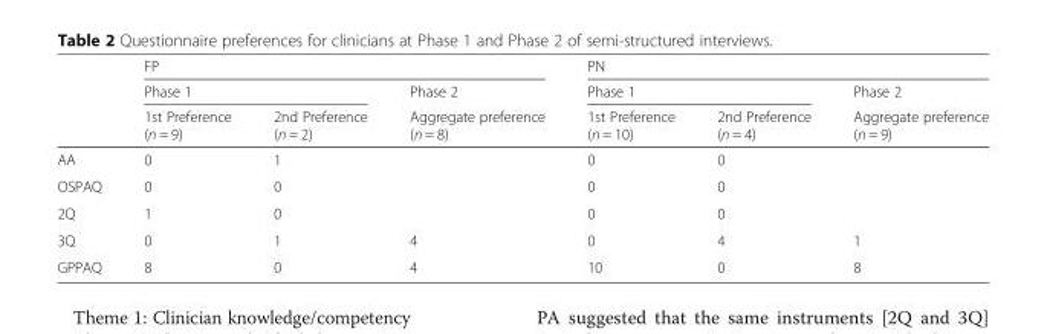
<table><thead><tr><td rowspan="3"></td><td colspan="3">FP</td><td colspan="3">PN</td></tr><tr><td colspan="2">Phase 1</td><td rowspan="2">Phase 2 Aggregate preference (n = 8)</td><td colspan="2">Phase 1</td><td rowspan="2">Phase 2 Aggregate preference (n = 9)</td></tr><tr><td>1st Preference (n = 9)</td><td>2nd Preference (n = 2)</td><td>1st Preference (n = 10)</td><td>2nd Preference (n = 4)</td></tr></thead><tbody><tr><td>AA</td><td>0</td><td>1</td><td rowspan="3"></td><td>0</td><td>0</td><td rowspan="3"></td></tr><tr><td>OSPAQ</td><td>0</td><td>0</td><td>0</td><td>0</td></tr><tr><td>2Q</td><td>1</td><td>0</td><td>0</td><td>0</td></tr><tr><td>3Q</td><td>0</td><td>1</td><td>4</td><td>0</td><td>4</td><td>1</td></tr><tr><td>GPPAQ</td><td>8</td><td>0</td><td>4</td><td>10</td><td>0</td><td>8</td></tr></tbody></table>